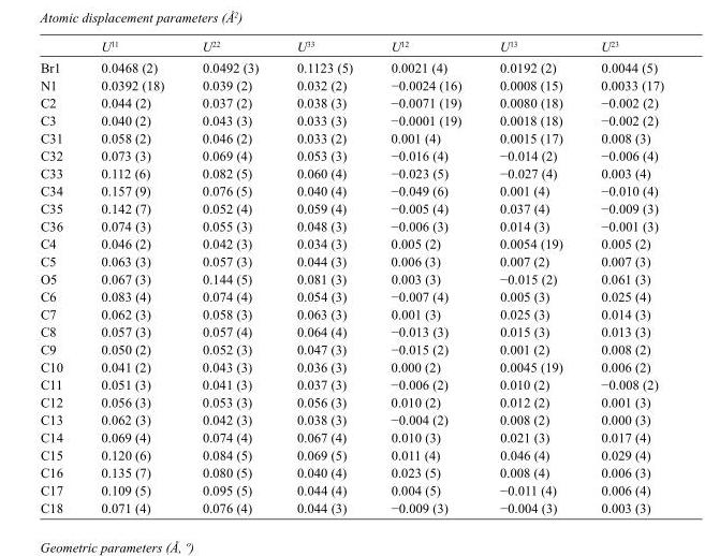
<table><thead><tr><td></td><td>U<sup>11</sup></td><td>U<sup>22</sup></td><td>U<sup>33</sup></td><td>U<sup>12</sup></td><td>U<sup>13</sup></td><td>U<sup>23</sup></td></tr></thead><tbody><tr><td>Br1</td><td>0.0468 (2)</td><td>0.0492 (3)</td><td>0.1123 (5)</td><td>0.0021 (4)</td><td>0.0192 (2)</td><td>0.0044 (5)</td></tr><tr><td>N1</td><td>0.0392 (18)</td><td>0.039 (2)</td><td>0.032 (2)</td><td>−0.0024 (16)</td><td>0.0008 (15)</td><td>0.0033 (17)</td></tr><tr><td>C2</td><td>0.044 (2)</td><td>0.037 (2)</td><td>0.038 (3)</td><td>−0.0071 (19)</td><td>0.0080 (18)</td><td>−0.002 (2)</td></tr><tr><td>C3</td><td>0.040 (2)</td><td>0.043 (3)</td><td>0.033 (3)</td><td>−0.0001 (19)</td><td>0.0018 (18)</td><td>−0.002 (2)</td></tr><tr><td>C31</td><td>0.058 (2)</td><td>0.046 (2)</td><td>0.033 (2)</td><td>0.001 (4)</td><td>0.0015 (17)</td><td>0.008 (3)</td></tr><tr><td>C32</td><td>0.073 (3)</td><td>0.069 (4)</td><td>0.053 (3)</td><td>−0.016 (4)</td><td>−0.014 (2)</td><td>−0.006 (4)</td></tr><tr><td>C33</td><td>0.112 (6)</td><td>0.082 (5)</td><td>0.060 (4)</td><td>−0.023 (5)</td><td>−0.027 (4)</td><td>0.003 (4)</td></tr><tr><td>C34</td><td>0.157 (9)</td><td>0.076 (5)</td><td>0.040 (4)</td><td>−0.049 (6)</td><td>0.001 (4)</td><td>−0.010 (4)</td></tr><tr><td>C35</td><td>0.142 (7)</td><td>0.052 (4)</td><td>0.059 (4)</td><td>−0.005 (4)</td><td>0.037 (4)</td><td>−0.009 (3)</td></tr><tr><td>C36</td><td>0.074 (3)</td><td>0.055 (3)</td><td>0.048 (3)</td><td>−0.006 (3)</td><td>0.014 (3)</td><td>−0.001 (3)</td></tr><tr><td>C4</td><td>0.046 (2)</td><td>0.042 (3)</td><td>0.034 (3)</td><td>0.005 (2)</td><td>0.0054 (19)</td><td>0.005 (2)</td></tr><tr><td>C5</td><td>0.063 (3)</td><td>0.057 (3)</td><td>0.044 (3)</td><td>0.006 (3)</td><td>0.007 (2)</td><td>0.007 (3)</td></tr><tr><td>O5</td><td>0.067 (3)</td><td>0.144 (5)</td><td>0.081 (3)</td><td>0.003 (3)</td><td>−0.015 (2)</td><td>0.061 (3)</td></tr><tr><td>C6</td><td>0.083 (4)</td><td>0.074 (4)</td><td>0.054 (3)</td><td>−0.007 (4)</td><td>0.005 (3)</td><td>0.025 (4)</td></tr><tr><td>C7</td><td>0.062 (3)</td><td>0.058 (3)</td><td>0.063 (3)</td><td>0.001 (3)</td><td>0.025 (3)</td><td>0.014 (3)</td></tr><tr><td>C8</td><td>0.057 (3)</td><td>0.057 (4)</td><td>0.064 (4)</td><td>−0.013 (3)</td><td>0.015 (3)</td><td>0.013 (3)</td></tr><tr><td>C9</td><td>0.050 (2)</td><td>0.052 (3)</td><td>0.047 (3)</td><td>−0.015 (2)</td><td>0.001 (2)</td><td>0.008 (2)</td></tr><tr><td>C10</td><td>0.041 (2)</td><td>0.043 (3)</td><td>0.036 (3)</td><td>0.000 (2)</td><td>0.0045 (19)</td><td>0.006 (2)</td></tr><tr><td>C11</td><td>0.051 (3)</td><td>0.041 (3)</td><td>0.037 (3)</td><td>−0.006 (2)</td><td>0.010 (2)</td><td>−0.008 (2)</td></tr><tr><td>C12</td><td>0.056 (3)</td><td>0.053 (3)</td><td>0.056 (3)</td><td>0.010 (2)</td><td>0.012 (2)</td><td>0.001 (3)</td></tr><tr><td>C13</td><td>0.062 (3)</td><td>0.042 (3)</td><td>0.038 (3)</td><td>−0.004 (2)</td><td>0.008 (2)</td><td>0.000 (3)</td></tr><tr><td>C14</td><td>0.069 (4)</td><td>0.074 (4)</td><td>0.067 (4)</td><td>0.010 (3)</td><td>0.021 (3)</td><td>0.017 (4)</td></tr><tr><td>C15</td><td>0.120 (6)</td><td>0.084 (5)</td><td>0.069 (5)</td><td>0.011 (4)</td><td>0.046 (4)</td><td>0.029 (4)</td></tr><tr><td>C16</td><td>0.135 (7)</td><td>0.080 (5)</td><td>0.040 (4)</td><td>0.023 (5)</td><td>0.008 (4)</td><td>0.006 (3)</td></tr><tr><td>C17</td><td>0.109 (5)</td><td>0.095 (5)</td><td>0.044 (4)</td><td>0.004 (5)</td><td>−0.011 (4)</td><td>0.006 (4)</td></tr><tr><td>C18</td><td>0.071 (4)</td><td>0.076 (4)</td><td>0.044 (3)</td><td>−0.009 (3)</td><td>−0.004 (3)</td><td>0.003 (3)</td></tr></tbody></table>